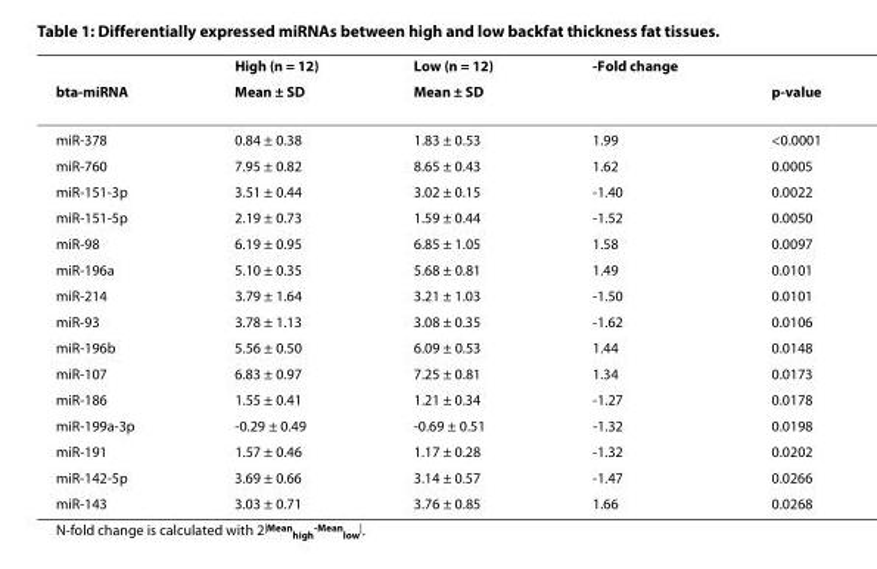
<table><thead><tr><td rowspan="2">bta-miRNA</td><td rowspan="2">High (n = 12) Mean ± SD</td><td rowspan="2">Low (n = 12) Mean ± SD</td><td rowspan="2">-Fold change</td><td rowspan="2">p-value</td></tr><tr></tr></thead><tbody><tr><td>miR-378</td><td>0.84 ± 0.38</td><td>1.83 ± 0.53</td><td>1.99</td><td>&lt;0.0001</td></tr><tr><td>miR-760</td><td>7.95 ± 0.82</td><td>8.65 ± 0.43</td><td>1.62</td><td>0.0005</td></tr><tr><td>miR-151-3p</td><td>3.51 ± 0.44</td><td>3.02 ± 0.15</td><td>-1.40</td><td>0.0022</td></tr><tr><td>miR-151-5p</td><td>2.19 ± 0.73</td><td>1.59 ± 0.44</td><td>-1.52</td><td>0.0050</td></tr><tr><td>miR-98</td><td>6.19 ± 0.95</td><td>6.85 ± 1.05</td><td>1.58</td><td>0.0097</td></tr><tr><td>miR-196a</td><td>5.10 ± 0.35</td><td>5.68 ± 0.81</td><td>1.49</td><td>0.0101</td></tr><tr><td>miR-214</td><td>3.79 ± 1.64</td><td>3.21 ± 1.03</td><td>-1.50</td><td>0.0101</td></tr><tr><td>miR-93</td><td>3.78 ± 1.13</td><td>3.08 ± 0.35</td><td>-1.62</td><td>0.0106</td></tr><tr><td>miR-196b</td><td>5.56 ± 0.50</td><td>6.09 ± 0.53</td><td>1.44</td><td>0.0148</td></tr><tr><td>miR-107</td><td>6.83 ± 0.97</td><td>7.25 ± 0.81</td><td>1.34</td><td>0.0173</td></tr><tr><td>miR-186</td><td>1.55 ± 0.41</td><td>1.21 ± 0.34</td><td>-1.27</td><td>0.0178</td></tr><tr><td>miR-199a-3p</td><td>-0.29 ± 0.49</td><td>-0.69 ± 0.51</td><td>-1.32</td><td>0.0198</td></tr><tr><td>miR-191</td><td>1.57 ± 0.46</td><td>1.17 ± 0.28</td><td>-1.32</td><td>0.0202</td></tr><tr><td>miR-142-5p</td><td>3.69 ± 0.66</td><td>3.14 ± 0.57</td><td>-1.47</td><td>0.0266</td></tr><tr><td>miR-143</td><td>3.03 ± 0.71</td><td>3.76 ± 0.85</td><td>1.66</td><td>0.0268</td></tr></tbody></table>